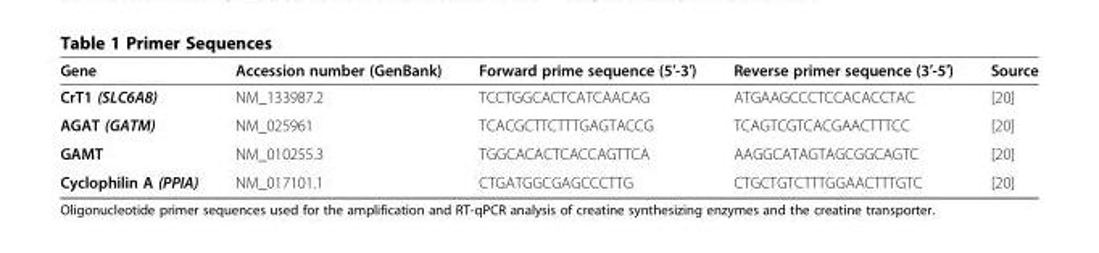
<table><thead><tr><td>Gene</td><td>Accession number (GenBank)</td><td>Forward prime sequence (5′-3′)</td><td>Reverse primer sequence (3′-5′)</td><td>Source</td></tr></thead><tbody><tr><td>CrT1 (SLC6A8)</td><td>NM_133987.2</td><td>TCCTGGCACTCATCAACAG</td><td>ATGAAGCCCTCCACACCTAC</td><td>[20]</td></tr><tr><td>AGAT (GATM)</td><td>NM_025961</td><td>TCACGCTTCTTTGAGTACCG</td><td>TCAGTCGTCACGAACTTTCC</td><td>[20]</td></tr><tr><td>GAMT</td><td>NM_010255.3</td><td>TGGCACACTCACCAGTTCA</td><td>AAGGCATAGTAGCGGCAGTC</td><td>[20]</td></tr><tr><td>Cyclophilin A (PPIA)</td><td>NM_017101.1</td><td>CTGATGGCGAGCCCTTG</td><td>CTGCTGTCTTTGGAACTTTGTC</td><td>[20]</td></tr></tbody></table>